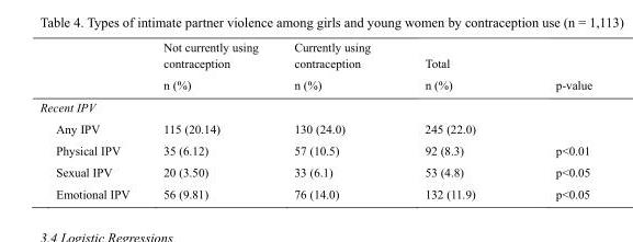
<table><thead><tr><td></td><td>Not currently using contraception n (%)</td><td>Currently using contraception n (%)</td><td>Total n (%)</td><td>p-value</td></tr></thead><tbody><tr><td colspan="5">Recent IPV</td></tr><tr><td>Any IPV</td><td>115 (20.14)</td><td>130 (24.0)</td><td>245 (22.0)</td><td></td></tr><tr><td>Physical IPV</td><td>35 (6.12)</td><td>57 (10.5)</td><td>92 (8.3)</td><td>p&lt;0.01</td></tr><tr><td>Sexual IPV</td><td>20 (3.50)</td><td>33 (6.1)</td><td>53 (4.8)</td><td>p&lt;0.05</td></tr><tr><td>Emotional IPV</td><td>56 (9.81)</td><td>76 (14.0)</td><td>132 (11.9)</td><td>p&lt;0.05</td></tr></tbody></table>